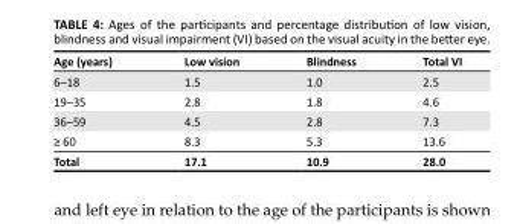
<table><thead><tr><td>Age (years)</td><td>Low vision</td><td>Blindness</td><td>Total VI</td></tr></thead><tbody><tr><td>6–18</td><td>1.5</td><td>1.0</td><td>2.5</td></tr><tr><td>19–35</td><td>2.8</td><td>1.8</td><td>4.6</td></tr><tr><td>36–59</td><td>4.5</td><td>2.8</td><td>7.3</td></tr><tr><td>≥ 60</td><td>8.3</td><td>5.3</td><td>13.6</td></tr><tr><td>Total</td><td>17.1</td><td>10.9</td><td>28.0</td></tr></tbody></table>